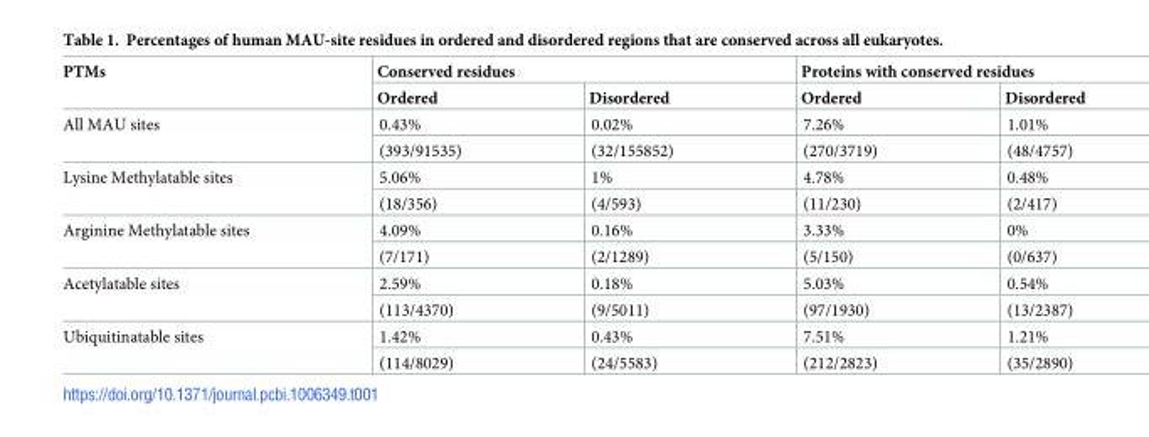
<table><thead><tr><td rowspan="2">PTMs</td><td colspan="2">Conserved residues</td><td colspan="2">Proteins with conserved residues</td></tr><tr><td>Ordered</td><td>Disordered</td><td>Ordered</td><td>Disordered</td></tr></thead><tbody><tr><td rowspan="2">All MAU sites</td><td>0.43%</td><td>0.02%</td><td>7.26%</td><td>1.01%</td></tr><tr><td>(393/91535)</td><td>(32/155852)</td><td>(270/3719)</td><td>(48/4757)</td></tr><tr><td rowspan="2">Lysine Methylatable sites</td><td>5.06%</td><td>1%</td><td>4.78%</td><td>0.48%</td></tr><tr><td>(18/356)</td><td>(4/593)</td><td>(11/230)</td><td>(2/417)</td></tr><tr><td rowspan="2">Arginine Methylatable sites</td><td>4.09%</td><td>0.16%</td><td>3.33%</td><td>0%</td></tr><tr><td>(7/171)</td><td>(2/1289)</td><td>(5/150)</td><td>(0/637)</td></tr><tr><td rowspan="2">Acetylatable sites</td><td>2.59%</td><td>0.18%</td><td>5.03%</td><td>0.54%</td></tr><tr><td>(113/4370)</td><td>(9/5011)</td><td>(97/1930)</td><td>(13/2387)</td></tr><tr><td rowspan="2">Ubiquitinatable sites</td><td>1.42%</td><td>0.43%</td><td>7.51%</td><td>1.21%</td></tr><tr><td>(114/8029)</td><td>(24/5583)</td><td>(212/2823)</td><td>(35/2890)</td></tr></tbody></table>